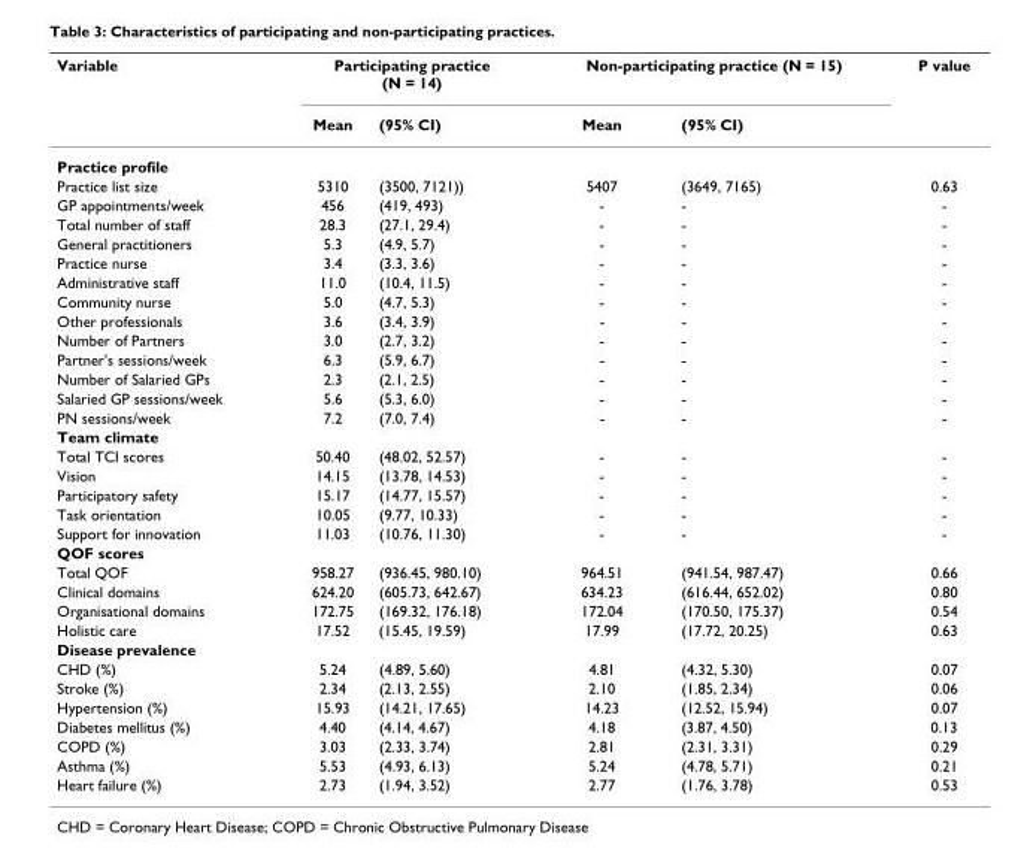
<table><thead><tr><td rowspan="2">Variable</td><td colspan="2">Participating practice (N = 14)</td><td colspan="2">Non-participating practice (N = 15)</td><td rowspan="2">P value</td></tr><tr><td>Mean</td><td>(95% CI)</td><td>Mean</td><td>(95% CI)</td></tr></thead><tbody><tr><td colspan="6">Practice profile</td></tr><tr><td>Practice list size</td><td>5310</td><td>(3500, 7121))</td><td>5407</td><td>(3649, 7165)</td><td>0.63</td></tr><tr><td>GP appointments/week</td><td>456</td><td>(419, 493)</td><td>-</td><td>-</td><td>-</td></tr><tr><td>Total number of staff</td><td>28.3</td><td>(27.1, 29.4)</td><td>-</td><td>-</td><td>-</td></tr><tr><td>General practitioners</td><td>5.3</td><td>(4.9, 5.7)</td><td>-</td><td>-</td><td>-</td></tr><tr><td>Practice nurse</td><td>3.4</td><td>(3.3, 3.6)</td><td>-</td><td>-</td><td>-</td></tr><tr><td>Administrative staff</td><td>11.0</td><td>(10.4, 11.5)</td><td>-</td><td>-</td><td>-</td></tr><tr><td>Community nurse</td><td>5.0</td><td>(4.7, 5.3)</td><td>-</td><td>-</td><td>-</td></tr><tr><td>Other professionals</td><td>3.6</td><td>(3.4, 3.9)</td><td>-</td><td>-</td><td>-</td></tr><tr><td>Number of Partners</td><td>3.0</td><td>(2.7, 3.2)</td><td>-</td><td>-</td><td>-</td></tr><tr><td>Partner&#x27;s sessions/week</td><td>6.3</td><td>(5.9, 6.7)</td><td>-</td><td>-</td><td>-</td></tr><tr><td>Number of Salaried GPs</td><td>2.3</td><td>(2.1, 2.5)</td><td>-</td><td>-</td><td>-</td></tr><tr><td>Salaried GP sessions/week</td><td>5.6</td><td>(5.3, 6.0)</td><td>-</td><td>-</td><td>-</td></tr><tr><td>PN sessions/week</td><td>7.2</td><td>(7.0, 7.4)</td><td>-</td><td>-</td><td>-</td></tr><tr><td colspan="6">Team climate</td></tr><tr><td>Total TCI scores</td><td>50.40</td><td>(48.02, 52.57)</td><td>-</td><td>-</td><td>-</td></tr><tr><td>Vision</td><td>14.15</td><td>(13.78, 14.53)</td><td>-</td><td>-</td><td>-</td></tr><tr><td>Participatory safety</td><td>15.17</td><td>(14.77, 15.57)</td><td>-</td><td>-</td><td>-</td></tr><tr><td>Task orientation</td><td>10.05</td><td>(9.77, 10.33)</td><td>-</td><td>-</td><td>-</td></tr><tr><td>Support for innovation</td><td>11.03</td><td>(10.76, 11.30)</td><td>-</td><td>-</td><td>-</td></tr><tr><td colspan="6">QOF scores</td></tr><tr><td>Total QOF</td><td>958.27</td><td>(936.45, 980.10)</td><td>964.51</td><td>(941.54, 987.47)</td><td>0.66</td></tr><tr><td>Clinical domains</td><td>624.20</td><td>(605.73, 642.67)</td><td>634.23</td><td>(616.44, 652.02)</td><td>0.80</td></tr><tr><td>Organisational domains</td><td>172.75</td><td>(169.32, 176.18)</td><td>172.04</td><td>(170.50, 175.37)</td><td>0.54</td></tr><tr><td>Holistic care</td><td>17.52</td><td>(15.45, 19.59)</td><td>17.99</td><td>(17.72, 20.25)</td><td>0.63</td></tr><tr><td colspan="6">Disease prevalence</td></tr><tr><td>CHD (%)</td><td>5.24</td><td>(4.89, 5.60)</td><td>4.81</td><td>(4.32, 5.30)</td><td>0.07</td></tr><tr><td>Stroke (%)</td><td>2.34</td><td>(2.13, 2.55)</td><td>2.10</td><td>(1.85, 2.34)</td><td>0.06</td></tr><tr><td>Hypertension (%)</td><td>15.93</td><td>(14.21, 17.65)</td><td>14.23</td><td>(12.52, 15.94)</td><td>0.07</td></tr><tr><td>Diabetes mellitus (%)</td><td>4.40</td><td>(4.14, 4.67)</td><td>4.18</td><td>(3.87, 4.50)</td><td>0.13</td></tr><tr><td>COPD (%)</td><td>3.03</td><td>(2.33, 3.74)</td><td>2.81</td><td>(2.31, 3.31)</td><td>0.29</td></tr><tr><td>Asthma (%)</td><td>5.53</td><td>(4.93, 6.13)</td><td>5.24</td><td>(4.78, 5.71)</td><td>0.21</td></tr><tr><td>Heart failure (%)</td><td>2.73</td><td>(1.94, 3.52)</td><td>2.77</td><td>(1.76, 3.78)</td><td>0.53</td></tr></tbody></table>